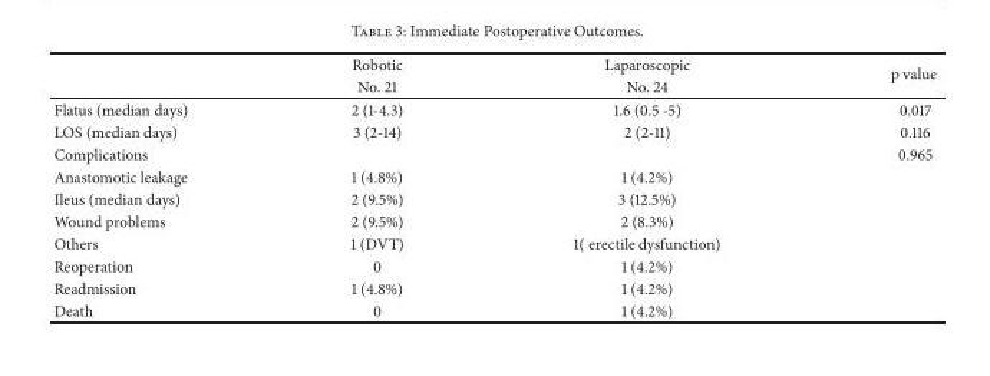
<table><thead><tr><td rowspan="2"></td><td rowspan="2">Robotic No. 21</td><td rowspan="2">Laparoscopic No. 24</td><td rowspan="2">p value</td></tr><tr></tr></thead><tbody><tr><td>Flatus (median days)</td><td>2 (1-4.3)</td><td>1.6 (0.5 -5)</td><td>0.017</td></tr><tr><td>LOS (median days)</td><td>3 (2-14)</td><td>2 (2-11)</td><td>0.116</td></tr><tr><td>Complications</td><td></td><td></td><td>0.965</td></tr><tr><td>Anastomotic leakage</td><td>1 (4.8%)</td><td>1 (4.2%)</td><td></td></tr><tr><td>Ileus (median days)</td><td>2 (9.5%)</td><td>3 (12.5%)</td><td></td></tr><tr><td>Wound problems</td><td>2 (9.5%)</td><td>2 (8.3%)</td><td></td></tr><tr><td>Others</td><td>1 (DVT)</td><td>1( erectile dysfunction)</td><td></td></tr><tr><td>Reoperation</td><td>0</td><td>1 (4.2%)</td><td></td></tr><tr><td>Readmission</td><td>1 (4.8%)</td><td>1 (4.2%)</td><td></td></tr><tr><td>Death</td><td>0</td><td>1 (4.2%)</td><td></td></tr></tbody></table>